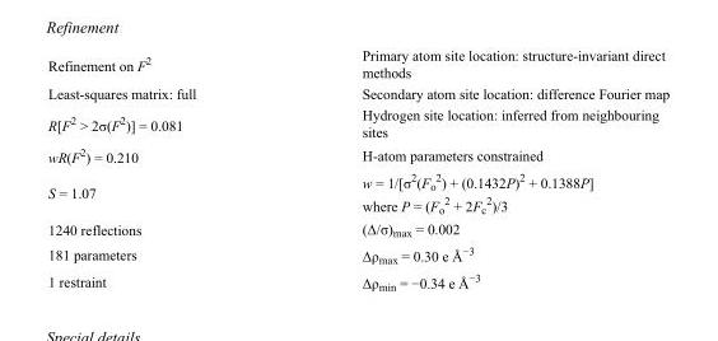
<table><tbody><tr><td>Refinement on F<sup>2</sup></td><td>Primary atom site location: structure-invariant direct methods</td></tr><tr><td>Least-squares matrix: full</td><td>Secondary atom site location: difference Fourier map</td></tr><tr><td>R[F<sup>2</sup> &gt; 2σ(F<sup>2</sup>)] = 0.081</td><td>Hydrogen site location: inferred from neighbouring sites</td></tr><tr><td>wR(F<sup>2</sup>) = 0.210</td><td>H-atom parameters constrained</td></tr><tr><td>S = 1.07</td><td>w = 1/[σ<sup>2</sup>(F<sub>o</sub> <sup>2</sup>) + (0.1432P)<sup>2</sup> + 0.1388P] where P = (F<sub>o</sub> <sup>2</sup> + 2F<sub>c</sub> <sup>2</sup>)/3</td></tr><tr><td>1240 reflections</td><td>(Δ/σ)<sub>max</sub> = 0.002</td></tr><tr><td>181 parameters</td><td>Δρ<sub>max</sub> = 0.30 e Å<sup>−3</sup></td></tr><tr><td>1 restraint</td><td>Δρ<sub>min</sub> = −0.34 e Å<sup>−3</sup></td></tr></tbody></table>